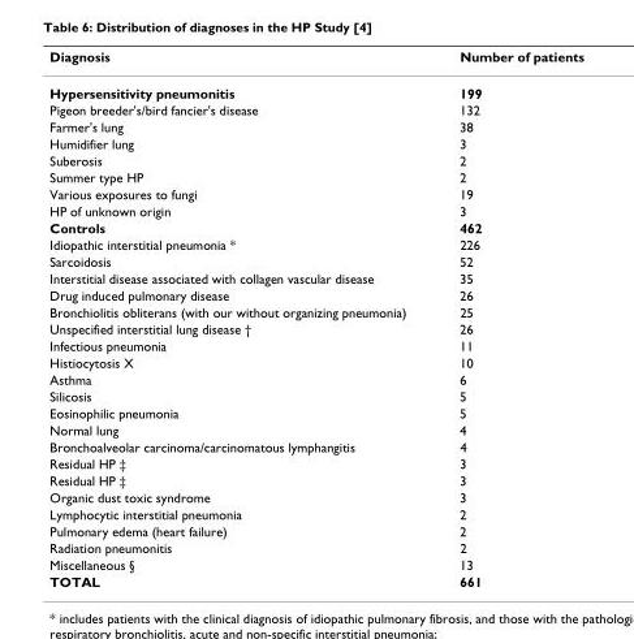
<table><thead><tr><td>Diagnosis</td><td>Number of patients</td></tr></thead><tbody><tr><td>Hypersensitivity pneumonitis</td><td>199</td></tr><tr><td>Pigeon breeder&#x27;s/bird fancier&#x27;s disease</td><td>132</td></tr><tr><td>Farmer&#x27;s lung</td><td>38</td></tr><tr><td>Humidifier lung</td><td>3</td></tr><tr><td>Suberosis</td><td>2</td></tr><tr><td>Summer type HP</td><td>2</td></tr><tr><td>Various exposures to fungi</td><td>19</td></tr><tr><td>HP of unknown origin</td><td>3</td></tr><tr><td>Controls</td><td>462</td></tr><tr><td>Idiopathic interstitial pneumonia *</td><td>226</td></tr><tr><td>Sarcoidosis</td><td>52</td></tr><tr><td>Interstitial disease associated with collagen vascular disease</td><td>35</td></tr><tr><td>Drug induced pulmonary disease</td><td>26</td></tr><tr><td>Bronchiolitis obliterans (with our without organizing pneumonia)</td><td>25</td></tr><tr><td>Unspecified interstitial lung disease †</td><td>26</td></tr><tr><td>Infectious pneumonia</td><td>11</td></tr><tr><td>Histiocytosis X</td><td>10</td></tr><tr><td>Asthma</td><td>6</td></tr><tr><td>Silicosis</td><td>5</td></tr><tr><td>Eosinophilic pneumonia</td><td>5</td></tr><tr><td>Normal lung</td><td>4</td></tr><tr><td>Bronchoalveolar carcinoma/carcinomatous lymphangitis</td><td>4</td></tr><tr><td>Residual HP ‡</td><td>3</td></tr><tr><td>Residual HP ‡</td><td>3</td></tr><tr><td>Organic dust toxic syndrome</td><td>3</td></tr><tr><td>Lymphocytic interstitial pneumonia</td><td>2</td></tr><tr><td>Pulmonary edema (heart failure)</td><td>2</td></tr><tr><td>Radiation pneumonitis</td><td>2</td></tr><tr><td>Miscellaneous §</td><td>13</td></tr><tr><td>TOTAL</td><td>661</td></tr></tbody></table>